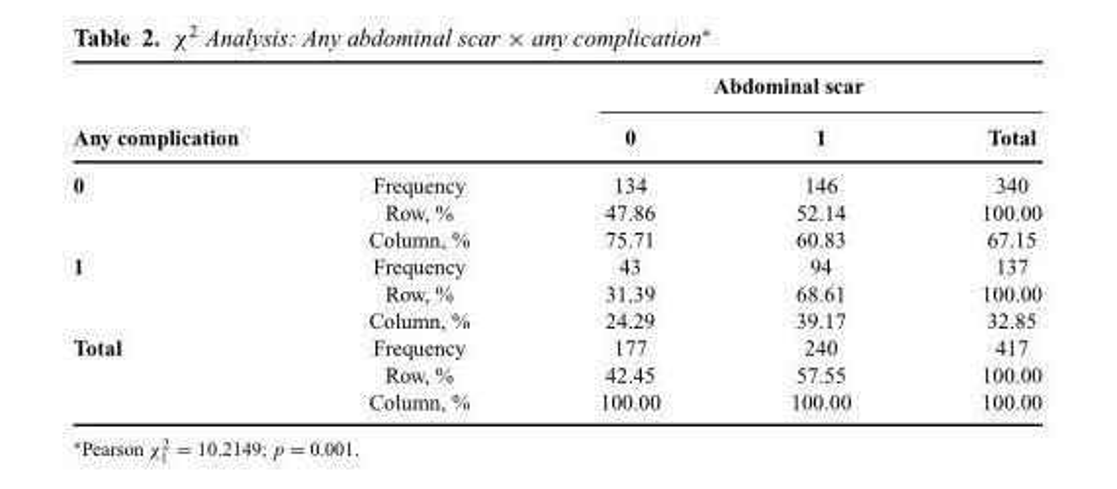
<table><thead><tr><td rowspan="2">Any complication</td><td rowspan="2"></td><td colspan="3">Abdominal scar</td></tr><tr><td>0</td><td>1</td><td>Total</td></tr></thead><tbody><tr><td rowspan="3">0</td><td>Frequency</td><td>134</td><td>146</td><td>340</td></tr><tr><td>Row, %</td><td>47.86</td><td>52.14</td><td>100.00</td></tr><tr><td>Column, %</td><td>75.71</td><td>60.83</td><td>67.15</td></tr><tr><td rowspan="3">1</td><td>Frequency</td><td>43</td><td>94</td><td>137</td></tr><tr><td>Row, %</td><td>31.39</td><td>68.61</td><td>100.00</td></tr><tr><td>Column, %</td><td>24.29</td><td>39.17</td><td>32.85</td></tr><tr><td rowspan="3">Total</td><td>Frequency</td><td>177</td><td>240</td><td>417</td></tr><tr><td>Row, %</td><td>42.45</td><td>57.55</td><td>100.00</td></tr><tr><td>Column, %</td><td>100.00</td><td>100.00</td><td>100.00</td></tr></tbody></table>